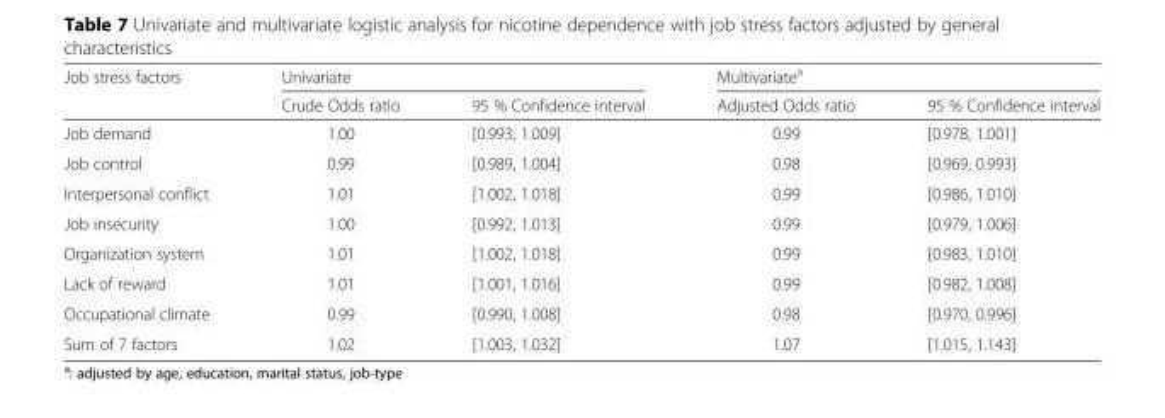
<table><thead><tr><td rowspan="2">Job stress factors</td><td colspan="2">Univariate</td><td colspan="2">Multivariate<sup>a</sup></td></tr><tr><td>Crude Odds ratio</td><td>95 % Confidence interval</td><td>Adjusted Odds ratio</td><td>95 % Confidence interval</td></tr></thead><tbody><tr><td>Job demand</td><td>1.00</td><td>[0.993, 1.009]</td><td>0.99</td><td>[0.978, 1.001]</td></tr><tr><td>Job control</td><td>0.99</td><td>[0.989, 1.004]</td><td>0.98</td><td>[0.969, 0.993]</td></tr><tr><td>Interpersonal conflict</td><td>1.01</td><td>[1.002, 1.018]</td><td>0.99</td><td>[0.986, 1.010]</td></tr><tr><td>Job insecurity</td><td>1.00</td><td>[0.992, 1.013]</td><td>0.99</td><td>[0.979, 1.006]</td></tr><tr><td>Organization system</td><td>1.01</td><td>[1.002, 1.018]</td><td>0.99</td><td>[0.983, 1.010]</td></tr><tr><td>Lack of reward</td><td>1.01</td><td>[1.001, 1.016]</td><td>0.99</td><td>[0.982, 1.008]</td></tr><tr><td>Occupational climate</td><td>0.99</td><td>[0.990, 1.008]</td><td>0.98</td><td>[0.970, 0.996]</td></tr><tr><td>Sum of 7 factors</td><td>1.02</td><td>[1.003, 1.032]</td><td>1.07</td><td>[1.015, 1.143]</td></tr></tbody></table>